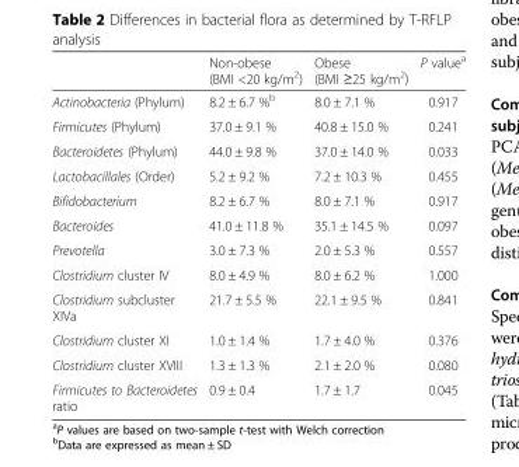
<table><thead><tr><td></td><td>Non-obese (BMI &lt;20 kg/m<sup>2</sup>)</td><td>Obese (BMI ≥25 kg/m<sup>2</sup>)</td><td>P value<sup>a</sup></td></tr></thead><tbody><tr><td>Actinobacteria (Phylum)</td><td>8.2 ± 6.7 %<sup>b</sup></td><td>8.0 ± 7.1 %</td><td>0.917</td></tr><tr><td>Firmicutes (Phylum)</td><td>37.0 ± 9.1 %</td><td>40.8 ± 15.0 %</td><td>0.241</td></tr><tr><td>Bacteroidetes (Phylum)</td><td>44.0 ± 9.8 %</td><td>37.0 ± 14.0 %</td><td>0.033</td></tr><tr><td>Lactobacillales (Order)</td><td>5.2 ± 9.2 %</td><td>7.2 ± 10.3 %</td><td>0.455</td></tr><tr><td>Bifidobacterium</td><td>8.2 ± 6.7 %</td><td>8.0 ± 7.1 %</td><td>0.917</td></tr><tr><td>Bacteroides</td><td>41.0 ± 11.8 %</td><td>35.1 ± 14.5 %</td><td>0.097</td></tr><tr><td>Prevotella</td><td>3.0 ± 7.3 %</td><td>2.0 ± 5.3 %</td><td>0.557</td></tr><tr><td>Clostridium cluster IV</td><td>8.0 ± 4.9 %</td><td>8.0 ± 6.2 %</td><td>1.000</td></tr><tr><td>Clostridium subcluster XIVa</td><td>21.7 ± 5.5 %</td><td>22.1 ± 9.5 %</td><td>0.841</td></tr><tr><td>Clostridium cluster XI</td><td>1.0 ± 1.4 %</td><td>1.7 ± 4.0 %</td><td>0.376</td></tr><tr><td>Clostridium cluster XVIII</td><td>1.3 ± 1.3 %</td><td>2.1 ± 2.0 %</td><td>0.080</td></tr><tr><td>Firmicutes to Bacteroidetes ratio</td><td>0.9 ± 0.4</td><td>1.7 ± 1.7</td><td>0.045</td></tr></tbody></table>